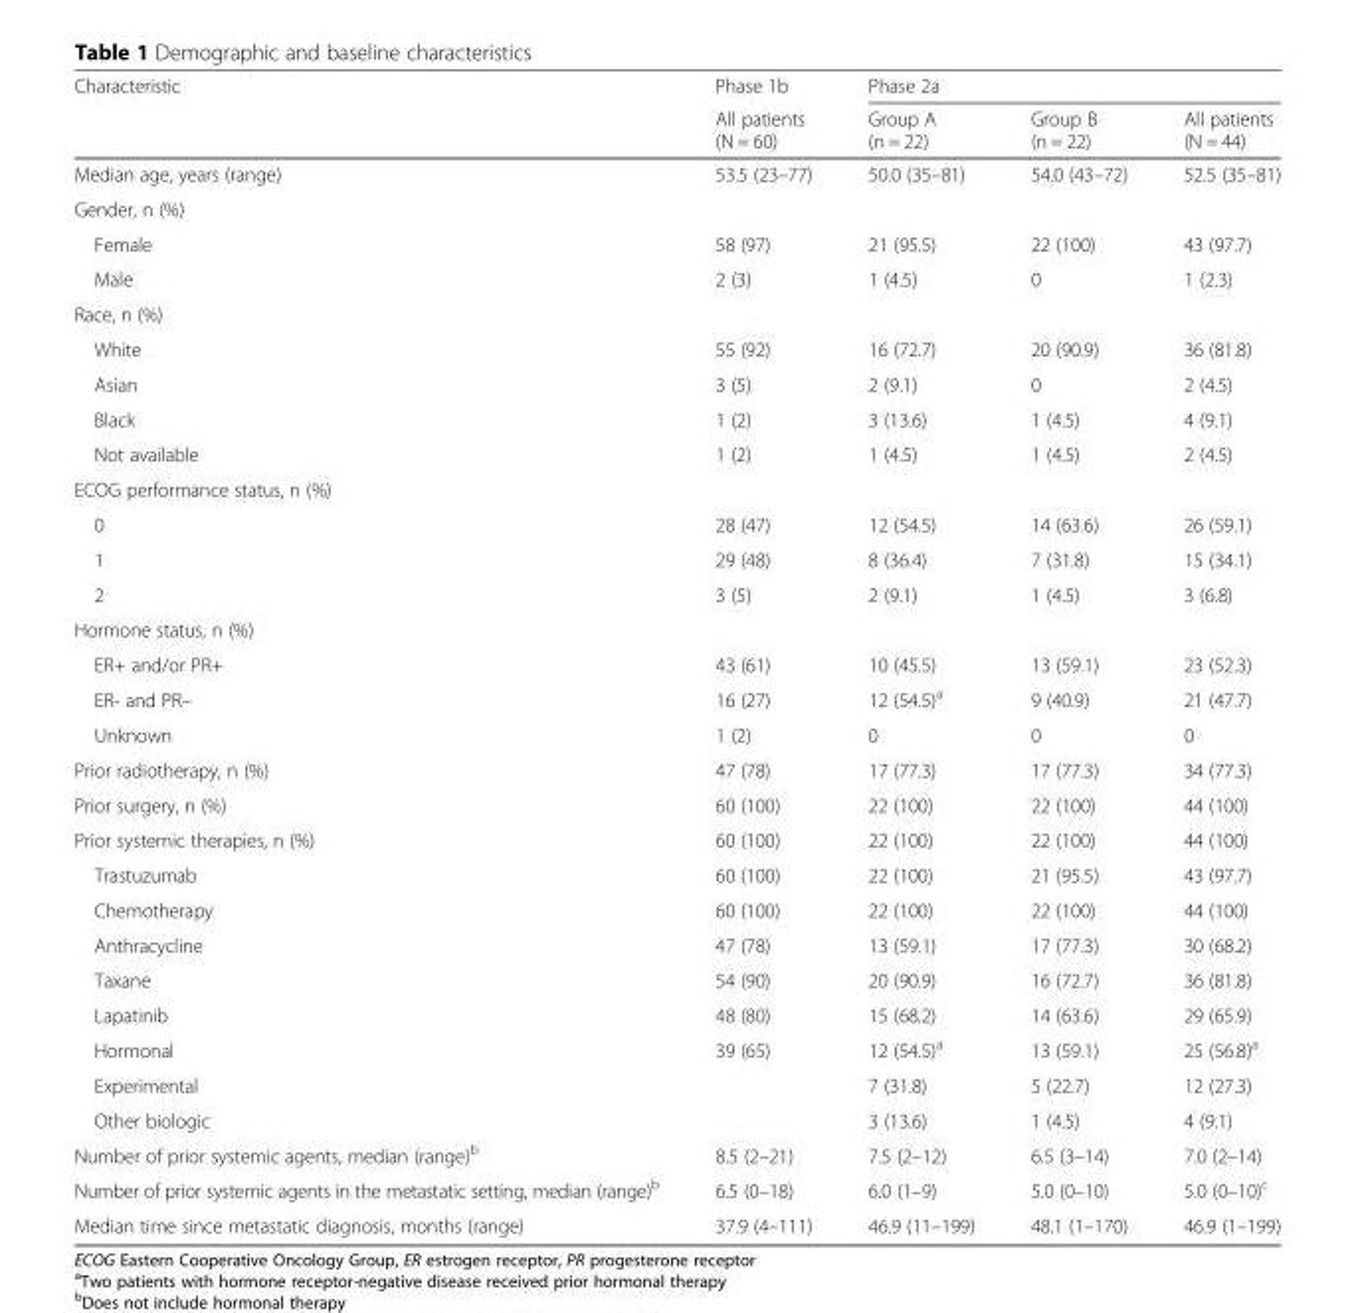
<table><thead><tr><td rowspan="2">Characteristic</td><td rowspan="2">Phase 1b All patients (N = 60)</td><td colspan="3">Phase 2a</td></tr><tr><td>Group A (n = 22)</td><td>Group B (n = 22)</td><td>All patients (N = 44)</td></tr></thead><tbody><tr><td>Median age, years (range)</td><td>53.5 (23–77)</td><td>50.0 (35–81)</td><td>54.0 (43–72)</td><td>52.5 (35–81)</td></tr><tr><td colspan="5">Gender, n (%)</td></tr><tr><td>Female</td><td>58 (97)</td><td>21 (95.5)</td><td>22 (100)</td><td>43 (97.7)</td></tr><tr><td>Male</td><td>2 (3)</td><td>1 (4.5)</td><td>0</td><td>1 (2.3)</td></tr><tr><td colspan="5">Race, n (%)</td></tr><tr><td>White</td><td>55 (92)</td><td>16 (72.7)</td><td>20 (90.9)</td><td>36 (81.8)</td></tr><tr><td>Asian</td><td>3 (5)</td><td>2 (9.1)</td><td>0</td><td>2 (4.5)</td></tr><tr><td>Black</td><td>1 (2)</td><td>3 (13.6)</td><td>1 (4.5)</td><td>4 (9.1)</td></tr><tr><td>Not available</td><td>1 (2)</td><td>1 (4.5)</td><td>1 (4.5)</td><td>2 (4.5)</td></tr><tr><td colspan="5">ECOG performance status, n (%)</td></tr><tr><td>0</td><td>28 (47)</td><td>12 (54.5)</td><td>14 (63.6)</td><td>26 (59.1)</td></tr><tr><td>1</td><td>29 (48)</td><td>8 (36.4)</td><td>7 (31.8)</td><td>15 (34.1)</td></tr><tr><td>2</td><td>3 (5)</td><td>2 (9.1)</td><td>1 (4.5)</td><td>3 (6.8)</td></tr><tr><td colspan="5">Hormone status, n (%)</td></tr><tr><td>ER+ and/or PR+</td><td>43 (61)</td><td>10 (45.5)</td><td>13 (59.1)</td><td>23 (52.3)</td></tr><tr><td>ER- and PR–</td><td>16 (27)</td><td>12 (54.5)<sup>a</sup></td><td>9 (40.9)</td><td>21 (47.7)</td></tr><tr><td>Unknown</td><td>1 (2)</td><td>0</td><td>0</td><td>0</td></tr><tr><td>Prior radiotherapy, n (%)</td><td>47 (78)</td><td>17 (77.3)</td><td>17 (77.3)</td><td>34 (77.3)</td></tr><tr><td>Prior surgery, n (%)</td><td>60 (100)</td><td>22 (100)</td><td>22 (100)</td><td>44 (100)</td></tr><tr><td>Prior systemic therapies, n (%)</td><td>60 (100)</td><td>22 (100)</td><td>22 (100)</td><td>44 (100)</td></tr><tr><td>Trastuzumab</td><td>60 (100)</td><td>22 (100)</td><td>21 (95.5)</td><td>43 (97.7)</td></tr><tr><td>Chemotherapy</td><td>60 (100)</td><td>22 (100)</td><td>22 (100)</td><td>44 (100)</td></tr><tr><td>Anthracycline</td><td>47 (78)</td><td>13 (59.1)</td><td>17 (77.3)</td><td>30 (68.2)</td></tr><tr><td>Taxane</td><td>54 (90)</td><td>20 (90.9)</td><td>16 (72.7)</td><td>36 (81.8)</td></tr><tr><td>Lapatinib</td><td>48 (80)</td><td>15 (68.2)</td><td>14 (63.6)</td><td>29 (65.9)</td></tr><tr><td>Hormonal</td><td>39 (65)</td><td>12 (54.5)<sup>a</sup></td><td>13 (59.1)</td><td>25 (56.8)<sup>a</sup></td></tr><tr><td>Experimental</td><td></td><td>7 (31.8)</td><td>5 (22.7)</td><td>12 (27.3)</td></tr><tr><td>Other biologic</td><td></td><td>3 (13.6)</td><td>1 (4.5)</td><td>4 (9.1)</td></tr><tr><td>Number of prior systemic agents, median (range)<sup>b</sup></td><td>8.5 (2–21)</td><td>7.5 (2–12)</td><td>6.5 (3–14)</td><td>7.0 (2–14)</td></tr><tr><td>Number of prior systemic agents in the metastatic setting, median (range)<sup>b</sup></td><td>6.5 (0–18)</td><td>6.0 (1–9)</td><td>5.0 (0–10)</td><td>5.0 (0–10)<sup>c</sup></td></tr><tr><td>Median time since metastatic diagnosis, months (range)</td><td>37.9 (4–111)</td><td>46.9 (11–199)</td><td>48.1 (1–170)</td><td>46.9 (1–199)</td></tr></tbody></table>